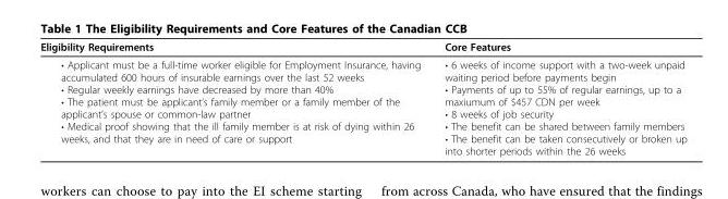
<table><thead><tr><td>Eligibility Requirements</td><td>Core Features</td></tr></thead><tbody><tr><td>• Applicant must be a full-time worker eligible for Employment Insurance, having accumulated 600 hours of insurable earnings over the last 52 weeks • Regular weekly earnings have decreased by more than 40% • The patient must be applicant’s family member or a family member of the applicant’s spouse or common-law partner • Medical proof showing that the ill family member is at risk of dying within 26 weeks, and that they are in need of care or support</td><td>• 6 weeks of income support with a two-week unpaid waiting period before payments begin • Payments of up to 55% of regular earnings, up to a maxiumum of $457 CDN per week • 8 weeks of job security • The benefit can be shared between family members • The benefit can be taken consecutively or broken up into shorter periods within the 26 weeks</td></tr></tbody></table>